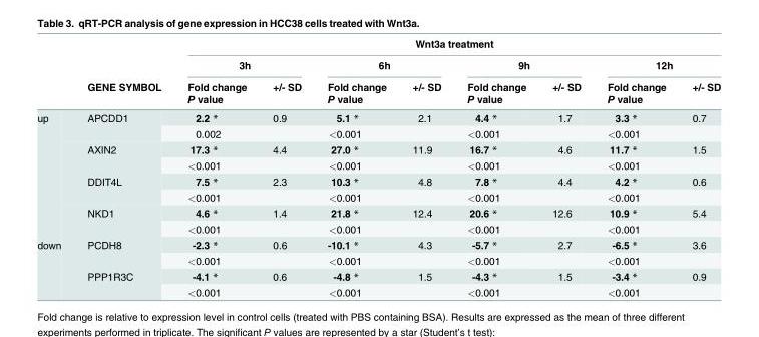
<table><thead><tr><td rowspan="4"></td><td rowspan="4">GENE SYMBOL</td><td colspan="8">Wnt3a treatment</td></tr><tr><td colspan="2">3h</td><td colspan="2">6h</td><td colspan="2">9h</td><td colspan="2">12h</td></tr><tr><td rowspan="2">Fold change P value</td><td rowspan="2">+/- SD</td><td rowspan="2">Fold change P value</td><td rowspan="2">+/- SD</td><td rowspan="2">Fold change P value</td><td rowspan="2">+/- SD</td><td rowspan="2">Fold change P value</td><td rowspan="2">+/- SD</td></tr><tr></tr></thead><tbody><tr><td rowspan="8">up</td><td rowspan="2">APCDD1</td><td>2.2 *</td><td>0.9</td><td>5.1 *</td><td>2.1</td><td>4.4 *</td><td>1.7</td><td>3.3 *</td><td>0.7</td></tr><tr><td>0.002</td><td></td><td>&lt;0.001</td><td></td><td>&lt;0.001</td><td></td><td>&lt;0.001</td><td></td></tr><tr><td rowspan="2">AXIN2</td><td>17.3 *</td><td>4.4</td><td>27.0 *</td><td>11.9</td><td>16.7 *</td><td>4.6</td><td>11.7 *</td><td>1.5</td></tr><tr><td>&lt;0.001</td><td></td><td>&lt;0.001</td><td></td><td>&lt;0.001</td><td></td><td>&lt;0.001</td><td></td></tr><tr><td rowspan="2">DDIT4L</td><td>7.5 *</td><td>2.3</td><td>10.3 *</td><td>4.8</td><td>7.8 *</td><td>4.4</td><td>4.2 *</td><td>0.6</td></tr><tr><td>&lt;0.001</td><td></td><td>&lt;0.001</td><td></td><td>&lt;0.001</td><td></td><td>&lt;0.001</td><td></td></tr><tr><td rowspan="2">NKD1</td><td>4.6 *</td><td>1.4</td><td>21.8 *</td><td>12.4</td><td>20.6 *</td><td>12.6</td><td>10.9 *</td><td>5.4</td></tr><tr><td>&lt;0.001</td><td></td><td>&lt;0.001</td><td></td><td>&lt;0.001</td><td></td><td>&lt;0.001</td><td></td></tr><tr><td rowspan="4">down</td><td rowspan="2">PCDH8</td><td>-2.3 *</td><td>0.6</td><td>-10.1 *</td><td>4.3</td><td>-5.7 *</td><td>2.7</td><td>-6.5 *</td><td>3.6</td></tr><tr><td>&lt;0.001</td><td></td><td>&lt;0.001</td><td></td><td>&lt;0.001</td><td></td><td>&lt;0.001</td><td></td></tr><tr><td rowspan="2">PPP1R3C</td><td>-4.1 *</td><td>0.6</td><td>-4.8 *</td><td>1.5</td><td>-4.3 *</td><td>1.5</td><td>-3.4 *</td><td>0.9</td></tr><tr><td>&lt;0.001</td><td></td><td>&lt;0.001</td><td></td><td>&lt;0.001</td><td></td><td>&lt;0.001</td><td></td></tr></tbody></table>